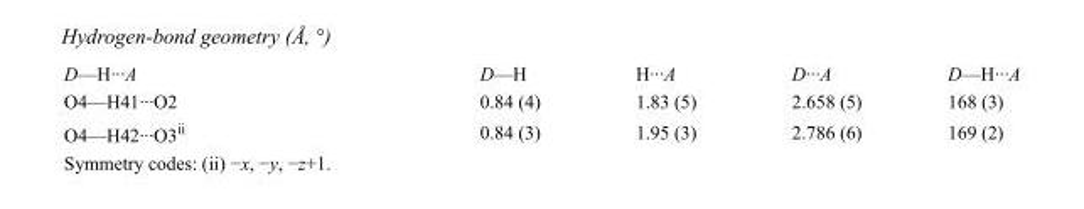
<table><tbody><tr><td>D—H···A</td><td>D—H</td><td>H···A</td><td>D···A</td><td>D—H···A</td></tr><tr><td>O4—H41···O2</td><td>0.84 (4)</td><td>1.83 (5)</td><td>2.658 (5)</td><td>168 (3)</td></tr><tr><td>O4—H42···O3<sup>ii</sup></td><td>0.84 (3)</td><td>1.95 (3)</td><td>2.786 (6)</td><td>169 (2)</td></tr></tbody></table>